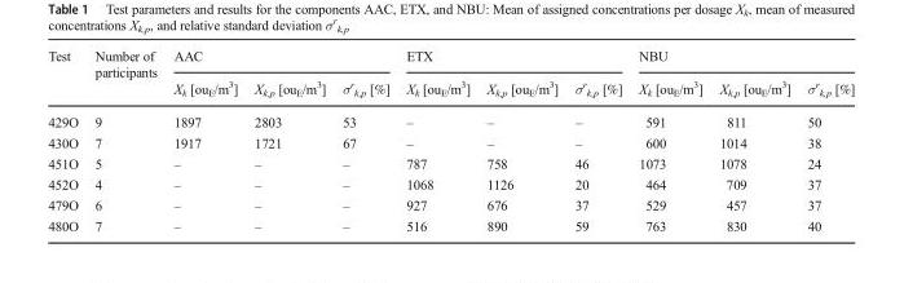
<table><thead><tr><td rowspan="2">Test</td><td rowspan="2">Number of participants</td><td colspan="3">AAC</td><td colspan="3">ETX</td><td colspan="3">NBU</td></tr><tr><td>X<sub>k</sub> [ou<sub>E</sub>/m<sup>3</sup>]</td><td>X<sub>k,p</sub> [ou<sub>E</sub>/m<sup>3</sup>]</td><td>σ<sup>r</sup> <sub>k,p</sub> [%]</td><td>X<sub>k</sub> [ou<sub>E</sub>/m<sup>3</sup>]</td><td>X<sub>k,p</sub> [ou<sub>E</sub>/m<sup>3</sup>]</td><td>σ<sup>r</sup> <sub>k,p</sub> [%]</td><td>X<sub>k</sub> [ou<sub>E</sub>/m<sup>3</sup>]</td><td>X<sub>k,p</sub> [ou<sub>E</sub>/m<sup>3</sup>]</td><td>σ<sup>r</sup> <sub>k,p</sub> [%]</td></tr></thead><tbody><tr><td>429O</td><td>9</td><td>1897</td><td>2803</td><td>53</td><td>–</td><td>–</td><td>–</td><td>591</td><td>811</td><td>50</td></tr><tr><td>430O</td><td>7</td><td>1917</td><td>1721</td><td>67</td><td>–</td><td>–</td><td>–</td><td>600</td><td>1014</td><td>38</td></tr><tr><td>451O</td><td>5</td><td>–</td><td>–</td><td>–</td><td>787</td><td>758</td><td>46</td><td>1073</td><td>1078</td><td>24</td></tr><tr><td>452O</td><td>4</td><td>–</td><td>–</td><td>–</td><td>1068</td><td>1126</td><td>20</td><td>464</td><td>709</td><td>37</td></tr><tr><td>479O</td><td>6</td><td>–</td><td>–</td><td>–</td><td>927</td><td>676</td><td>37</td><td>529</td><td>457</td><td>37</td></tr><tr><td>480O</td><td>7</td><td>–</td><td>–</td><td>–</td><td>516</td><td>890</td><td>59</td><td>763</td><td>830</td><td>40</td></tr></tbody></table>